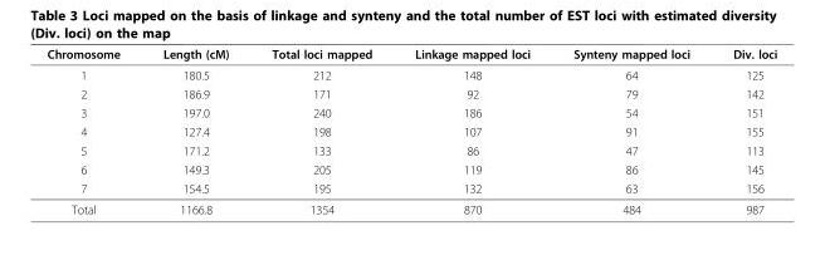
<table><thead><tr><td>Chromosome</td><td>Length (cM)</td><td>Total loci mapped</td><td>Linkage mapped loci</td><td>Synteny mapped loci</td><td>Div. loci</td></tr></thead><tbody><tr><td>1</td><td>180.5</td><td>212</td><td>148</td><td>64</td><td>125</td></tr><tr><td>2</td><td>186.9</td><td>171</td><td>92</td><td>79</td><td>142</td></tr><tr><td>3</td><td>197.0</td><td>240</td><td>186</td><td>54</td><td>151</td></tr><tr><td>4</td><td>127.4</td><td>198</td><td>107</td><td>91</td><td>155</td></tr><tr><td>5</td><td>171.2</td><td>133</td><td>86</td><td>47</td><td>113</td></tr><tr><td>6</td><td>149.3</td><td>205</td><td>119</td><td>86</td><td>145</td></tr><tr><td>7</td><td>154.5</td><td>195</td><td>132</td><td>63</td><td>156</td></tr><tr><td>Total</td><td>1166.8</td><td>1354</td><td>870</td><td>484</td><td>987</td></tr></tbody></table>